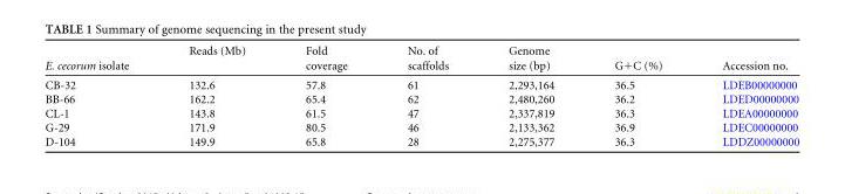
<table><thead><tr><td>E. cecorum isolate</td><td>Reads (Mb)</td><td>Fold coverage</td><td>No. of scaffolds</td><td>Genome size (bp)</td><td>G+C (%)</td><td>Accession no.</td></tr></thead><tbody><tr><td>CB-32</td><td>132.6</td><td>57.8</td><td>61</td><td>2,293,164</td><td>36.5</td><td>LDEB00000000</td></tr><tr><td>BB-66</td><td>162.2</td><td>65.4</td><td>62</td><td>2,480,260</td><td>36.2</td><td>LDED00000000</td></tr><tr><td>CL-1</td><td>143.8</td><td>61.5</td><td>47</td><td>2,337,819</td><td>36.3</td><td>LDEA00000000</td></tr><tr><td>G-29</td><td>171.9</td><td>80.5</td><td>46</td><td>2,133,362</td><td>36.9</td><td>LDEC00000000</td></tr><tr><td>D-104</td><td>149.9</td><td>65.8</td><td>28</td><td>2,275,377</td><td>36.3</td><td>LDDZ00000000</td></tr></tbody></table>